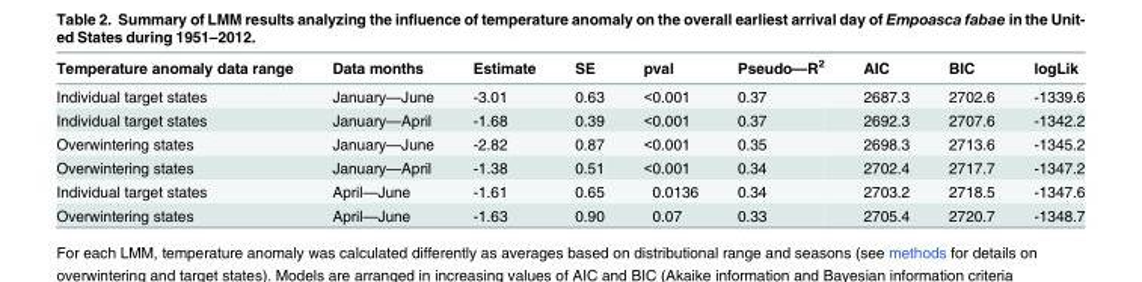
<table><thead><tr><td>Temperature anomaly data range</td><td>Data months</td><td>Estimate</td><td>SE</td><td>pval</td><td>Pseudo—R<sup>2</sup></td><td>AIC</td><td>BIC</td><td>logLik</td></tr></thead><tbody><tr><td>Individual target states</td><td>January—June</td><td>-3.01</td><td>0.63</td><td>&lt;0.001</td><td>0.37</td><td>2687.3</td><td>2702.6</td><td>-1339.6</td></tr><tr><td>Individual target states</td><td>January—April</td><td>-1.68</td><td>0.39</td><td>&lt;0.001</td><td>0.37</td><td>2692.3</td><td>2707.6</td><td>-1342.2</td></tr><tr><td>Overwintering states</td><td>January—June</td><td>-2.82</td><td>0.87</td><td>&lt;0.001</td><td>0.35</td><td>2698.3</td><td>2713.6</td><td>-1345.2</td></tr><tr><td>Overwintering states</td><td>January—April</td><td>-1.38</td><td>0.51</td><td>&lt;0.001</td><td>0.34</td><td>2702.4</td><td>2717.7</td><td>-1347.2</td></tr><tr><td>Individual target states</td><td>April—June</td><td>-1.61</td><td>0.65</td><td>0.0136</td><td>0.34</td><td>2703.2</td><td>2718.5</td><td>-1347.6</td></tr><tr><td>Overwintering states</td><td>April—June</td><td>-1.63</td><td>0.90</td><td>0.07</td><td>0.33</td><td>2705.4</td><td>2720.7</td><td>-1348.7</td></tr></tbody></table>